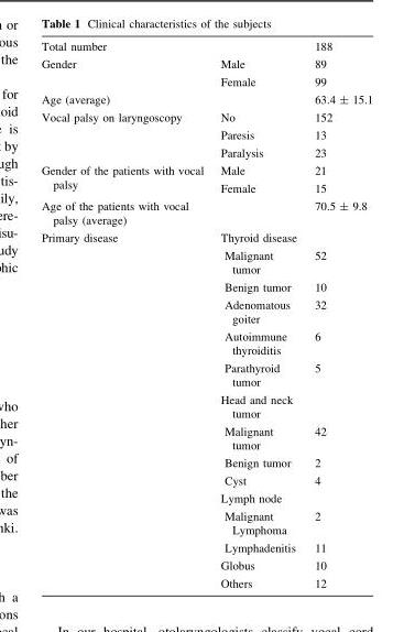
<table><tbody><tr><td>Total number</td><td></td><td>188</td></tr><tr><td rowspan="2">Gender</td><td>Male</td><td>89</td></tr><tr><td>Female</td><td>99</td></tr><tr><td>Age (average)</td><td></td><td>63.4 ± 15.1</td></tr><tr><td rowspan="3">Vocal palsy on laryngoscopy</td><td>No</td><td>152</td></tr><tr><td>Paresis</td><td>13</td></tr><tr><td>Paralysis</td><td>23</td></tr><tr><td rowspan="2">Gender of the patients with vocal palsy</td><td>Male</td><td>21</td></tr><tr><td>Female</td><td>15</td></tr><tr><td>Age of the patients with vocal palsy (average)</td><td></td><td>70.5 ± 9.8</td></tr><tr><td rowspan="15">Primary disease</td><td>Thyroid disease</td><td></td></tr><tr><td>Malignant tumor</td><td>52</td></tr><tr><td>Benign tumor</td><td>10</td></tr><tr><td>Adenomatous goiter</td><td>32</td></tr><tr><td>Autoimmune thyroiditis</td><td>6</td></tr><tr><td>Parathyroid tumor</td><td>5</td></tr><tr><td>Head and neck tumor</td><td></td></tr><tr><td>Malignant tumor</td><td>42</td></tr><tr><td>Benign tumor</td><td>2</td></tr><tr><td>Cyst</td><td>4</td></tr><tr><td>Lymph node</td><td></td></tr><tr><td>Malignant Lymphoma</td><td>2</td></tr><tr><td>Lymphadenitis</td><td>11</td></tr><tr><td>Globus</td><td>10</td></tr><tr><td>Others</td><td>12</td></tr></tbody></table>